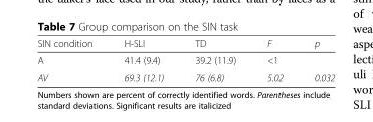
<table><thead><tr><td>SIN condition</td><td>H-SLI</td><td>TD</td><td>F</td><td>p</td></tr></thead><tbody><tr><td>A</td><td>41.4 (9.4)</td><td>39.2 (11.9)</td><td>&lt;1</td><td></td></tr><tr><td>AV</td><td>69.3 (12.1)</td><td>76 (6.8)</td><td>5.02</td><td>0.032</td></tr></tbody></table>